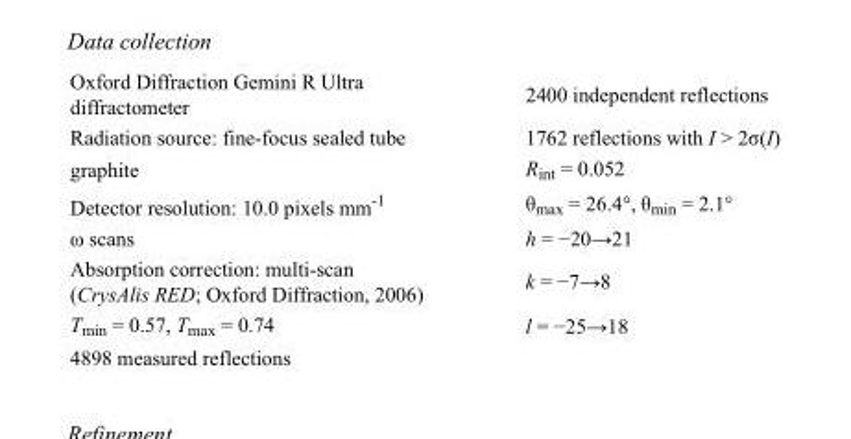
<table><tbody><tr><td>Oxford Diffraction Gemini R Ultra diffractometer</td><td>2400 independent reflections</td></tr><tr><td>Radiation source: fine-focus sealed tube</td><td>1762 reflections with I &gt; 2σ(I)</td></tr><tr><td>graphite</td><td>R<sub>int</sub> = 0.052</td></tr><tr><td>Detector resolution: 10.0 pixels mm<sup>-1</sup></td><td>θ<sub>max</sub> = 26.4°, θ<sub>min</sub> = 2.1°</td></tr><tr><td>ω scans</td><td>h = −20→21</td></tr><tr><td>Absorption correction: multi-scan (CrysAlis RED; Oxford Diffraction, 2006)</td><td>k = −7→8</td></tr><tr><td>T<sub>min</sub> = 0.57, T<sub>max</sub> = 0.74</td><td>l = −25→18</td></tr><tr><td>4898 measured reflections</td><td></td></tr></tbody></table>